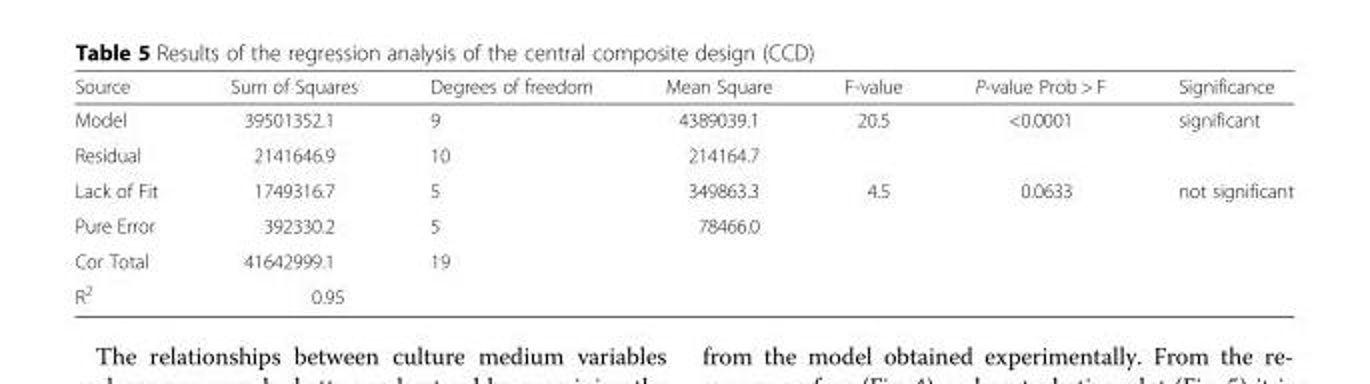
<table><thead><tr><td>Source</td><td>Sum of Squares</td><td>Degrees of freedom</td><td>Mean Square</td><td>F-value</td><td>P-value Prob &gt; F</td><td>Significance</td></tr></thead><tbody><tr><td>Model</td><td>39501352.1</td><td>9</td><td>4389039.1</td><td>20.5</td><td>&lt;0.0001</td><td>significant</td></tr><tr><td>Residual</td><td>2141646.9</td><td>10</td><td>214164.7</td><td></td><td></td><td></td></tr><tr><td>Lack of Fit</td><td>1749316.7</td><td>5</td><td>349863.3</td><td>4.5</td><td>0.0633</td><td>not significant</td></tr><tr><td>Pure Error</td><td>392330.2</td><td>5</td><td>78466.0</td><td></td><td></td><td></td></tr><tr><td>Cor Total</td><td>41642999.1</td><td>19</td><td></td><td></td><td></td><td></td></tr><tr><td>R<sup>2</sup></td><td>0.95</td><td></td><td></td><td></td><td></td><td></td></tr></tbody></table>